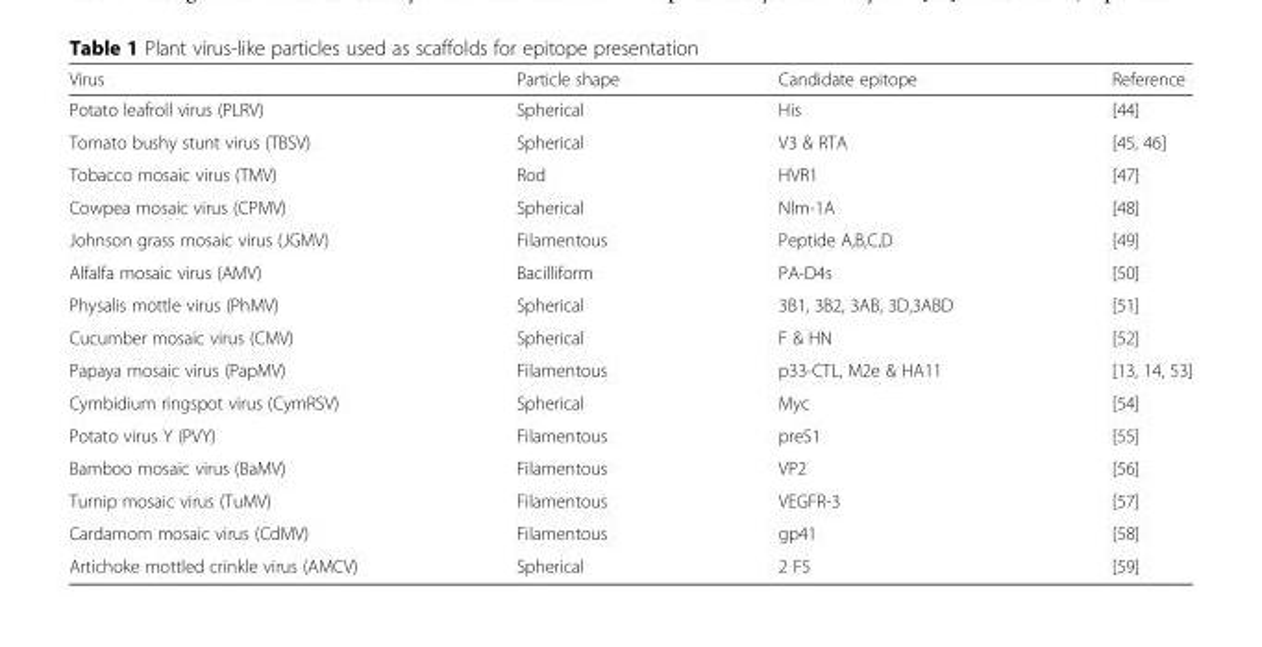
<table><thead><tr><td>Virus</td><td>Particle shape</td><td>Candidate epitope</td><td>Reference</td></tr></thead><tbody><tr><td>Potato leafroll virus (PLRV)</td><td>Spherical</td><td>His</td><td>[44]</td></tr><tr><td>Tomato bushy stunt virus (TBSV)</td><td>Spherical</td><td>V3 &amp; RTA</td><td>[45, 46]</td></tr><tr><td>Tobacco mosaic virus (TMV)</td><td>Rod</td><td>HVR1</td><td>[47]</td></tr><tr><td>Cowpea mosaic virus (CPMV)</td><td>Spherical</td><td>Nlm-1A</td><td>[48]</td></tr><tr><td>Johnson grass mosaic virus (JGMV)</td><td>Filamentous</td><td>Peptide A,B,C,D</td><td>[49]</td></tr><tr><td>Alfalfa mosaic virus (AMV)</td><td>Bacilliform</td><td>PA-D4s</td><td>[50]</td></tr><tr><td>Physalis mottle virus (PhMV)</td><td>Spherical</td><td>3B1, 3B2, 3AB, 3D,3ABD</td><td>[51]</td></tr><tr><td>Cucumber mosaic virus (CMV)</td><td>Spherical</td><td>F &amp; HN</td><td>[52]</td></tr><tr><td>Papaya mosaic virus (PapMV)</td><td>Filamentous</td><td>p33-CTL, M2e &amp; HA11</td><td>[13, 14, 53]</td></tr><tr><td>Cymbidium ringspot virus (CymRSV)</td><td>Spherical</td><td>Myc</td><td>[54]</td></tr><tr><td>Potato virus Y (PVY)</td><td>Filamentous</td><td>preS1</td><td>[55]</td></tr><tr><td>Bamboo mosaic virus (BaMV)</td><td>Filamentous</td><td>VP2</td><td>[56]</td></tr><tr><td>Turnip mosaic virus (TuMV)</td><td>Filamentous</td><td>VEGFR-3</td><td>[57]</td></tr><tr><td>Cardamom mosaic virus (CdMV)</td><td>Filamentous</td><td>gp41</td><td>[58]</td></tr><tr><td>Artichoke mottled crinkle virus (AMCV)</td><td>Spherical</td><td>2 F5</td><td>[59]</td></tr></tbody></table>